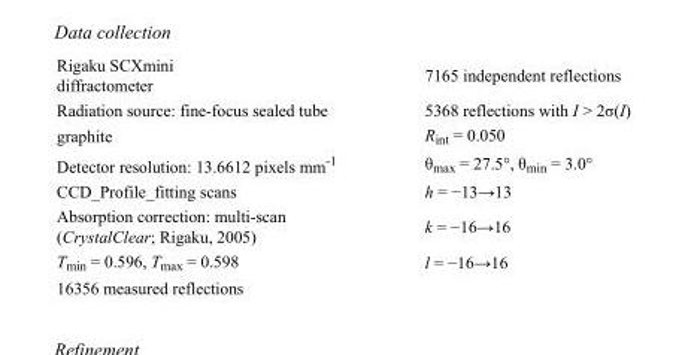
<table><tbody><tr><td>Rigaku SCXmini diffractometer</td><td>7165 independent reflections</td></tr><tr><td>Radiation source: fine-focus sealed tube</td><td>5368 reflections with I &gt; 2σ(I)</td></tr><tr><td>graphite</td><td>R<sub>int</sub> = 0.050</td></tr><tr><td>Detector resolution: 13.6612 pixels mm<sup>-1</sup></td><td>θ<sub>max</sub> = 27.5°, θ<sub>min</sub> = 3.0°</td></tr><tr><td>CCD_Profile_fitting scans</td><td>h = −13→13</td></tr><tr><td>Absorption correction: multi-scan (CrystalClear; Rigaku, 2005)</td><td>k = −16→16</td></tr><tr><td>T<sub>min</sub> = 0.596, T<sub>max</sub> = 0.598</td><td>l = −16→16</td></tr><tr><td>16356 measured reflections</td><td></td></tr></tbody></table>